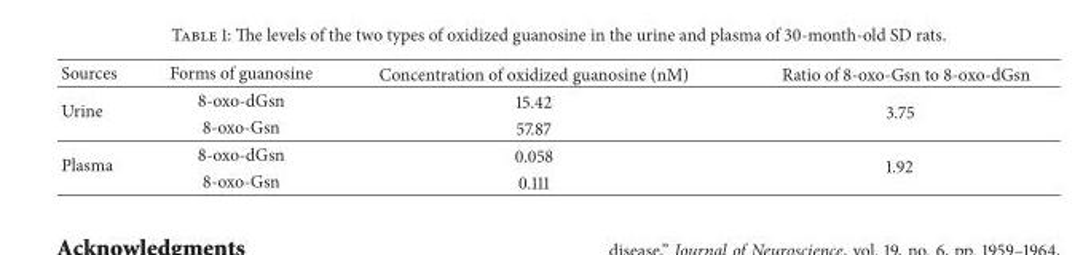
<table><thead><tr><td>Sources</td><td>Forms of guanosine</td><td>Concentration of oxidized guanosine (nM)</td><td>Ratio of 8-oxo-Gsn to 8-oxo-dGsn</td></tr></thead><tbody><tr><td rowspan="2">Urine</td><td>8-oxo-dGsn</td><td>15.42</td><td rowspan="2">3.75</td></tr><tr><td>8-oxo-Gsn</td><td>57.87</td></tr><tr><td rowspan="2">Plasma</td><td>8-oxo-dGsn</td><td>0.058</td><td rowspan="2">1.92</td></tr><tr><td>8-oxo-Gsn</td><td>0.111</td></tr></tbody></table>